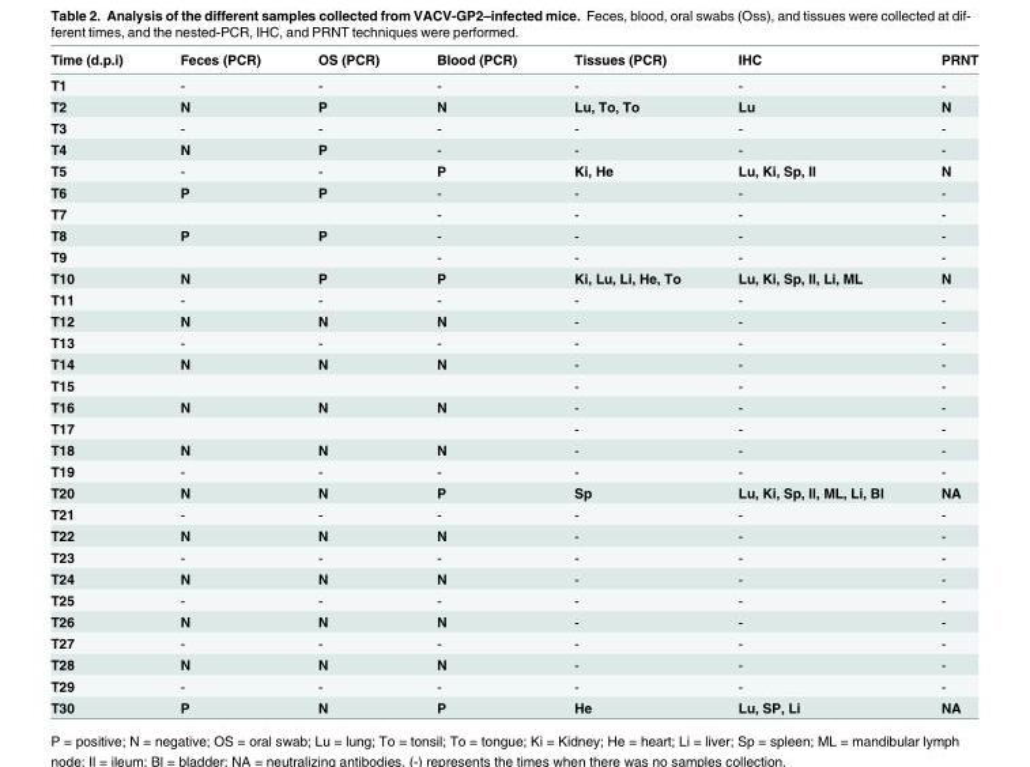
<table><thead><tr><td>Time (d.p.i)</td><td>Feces (PCR)</td><td>OS (PCR)</td><td>Blood (PCR)</td><td>Tissues (PCR)</td><td>IHC</td><td>PRNT</td></tr></thead><tbody><tr><td>T1</td><td>-</td><td>-</td><td>-</td><td>-</td><td>-</td><td>-</td></tr><tr><td>T2</td><td>N</td><td>P</td><td>N</td><td>Lu, To, To</td><td>Lu</td><td>N</td></tr><tr><td>T3</td><td>-</td><td>-</td><td>-</td><td>-</td><td>-</td><td>-</td></tr><tr><td>T4</td><td>N</td><td>P</td><td>-</td><td>-</td><td>-</td><td>-</td></tr><tr><td>T5</td><td>-</td><td>-</td><td>P</td><td>Ki, He</td><td>Lu, Ki, Sp, Il</td><td>N</td></tr><tr><td>T6</td><td>P</td><td>P</td><td>-</td><td>-</td><td>-</td><td>-</td></tr><tr><td>T7</td><td></td><td></td><td>-</td><td>-</td><td>-</td><td>-</td></tr><tr><td>T8</td><td>P</td><td>P</td><td>-</td><td>-</td><td>-</td><td>-</td></tr><tr><td>T9</td><td></td><td></td><td>-</td><td>-</td><td>-</td><td>-</td></tr><tr><td>T10</td><td>N</td><td>P</td><td>P</td><td>Ki, Lu, Li, He, To</td><td>Lu, Ki, Sp, Il, Li, ML</td><td>N</td></tr><tr><td>T11</td><td>-</td><td>-</td><td>-</td><td>-</td><td>-</td><td>-</td></tr><tr><td>T12</td><td>N</td><td>N</td><td>N</td><td>-</td><td>-</td><td>-</td></tr><tr><td>T13</td><td>-</td><td>-</td><td>-</td><td>-</td><td>-</td><td>-</td></tr><tr><td>T14</td><td>N</td><td>N</td><td>N</td><td>-</td><td>-</td><td>-</td></tr><tr><td>T15</td><td></td><td></td><td></td><td>-</td><td>-</td><td>-</td></tr><tr><td>T16</td><td>N</td><td>N</td><td>N</td><td>-</td><td>-</td><td>-</td></tr><tr><td>T17</td><td></td><td></td><td></td><td>-</td><td>-</td><td>-</td></tr><tr><td>T18</td><td>N</td><td>N</td><td>N</td><td>-</td><td>-</td><td>-</td></tr><tr><td>T19</td><td>-</td><td>-</td><td>-</td><td>-</td><td>-</td><td>-</td></tr><tr><td>T20</td><td>N</td><td>N</td><td>P</td><td>Sp</td><td>Lu, Ki, Sp, Il, ML, Li, Bl</td><td>NA</td></tr><tr><td>T21</td><td>-</td><td>-</td><td>-</td><td>-</td><td>-</td><td>-</td></tr><tr><td>T22</td><td>N</td><td>N</td><td>N</td><td>-</td><td>-</td><td>-</td></tr><tr><td>T23</td><td>-</td><td>-</td><td>-</td><td>-</td><td>-</td><td>-</td></tr><tr><td>T24</td><td>N</td><td>N</td><td>N</td><td>-</td><td>-</td><td>-</td></tr><tr><td>T25</td><td>-</td><td>-</td><td>-</td><td>-</td><td>-</td><td>-</td></tr><tr><td>T26</td><td>N</td><td>N</td><td>N</td><td>-</td><td>-</td><td>-</td></tr><tr><td>T27</td><td>-</td><td>-</td><td>-</td><td>-</td><td>-</td><td>-</td></tr><tr><td>T28</td><td>N</td><td>N</td><td>N</td><td>-</td><td>-</td><td>-</td></tr><tr><td>T29</td><td>-</td><td>-</td><td>-</td><td>-</td><td>-</td><td>-</td></tr><tr><td>T30</td><td>P</td><td>N</td><td>P</td><td>He</td><td>Lu, SP, Li</td><td>NA</td></tr></tbody></table>